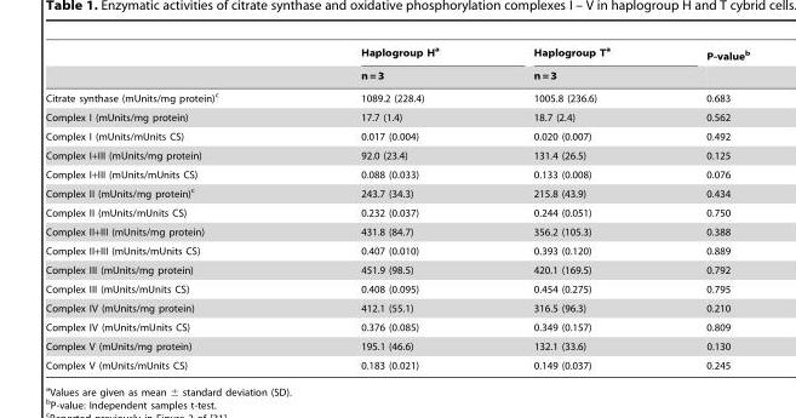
<table><thead><tr><td rowspan="2"></td><td rowspan="2">Haplogroup H<sup>a</sup> n = 3</td><td rowspan="2">Haplogroup T<sup>a</sup> n = 3</td><td rowspan="2">P-value<sup>b</sup></td></tr><tr></tr></thead><tbody><tr><td>Citrate synthase (mUnits/mg protein)<sup>c</sup></td><td>1089.2 (228.4)</td><td>1005.8 (236.6)</td><td>0.683</td></tr><tr><td>Complex I (mUnits/mg protein)</td><td>17.7 (1.4)</td><td>18.7 (2.4)</td><td>0.562</td></tr><tr><td>Complex I (mUnits/mUnits CS)</td><td>0.017 (0.004)</td><td>0.020 (0.007)</td><td>0.492</td></tr><tr><td>Complex I+III (mUnits/mg protein)</td><td>92.0 (23.4)</td><td>131.4 (26.5)</td><td>0.125</td></tr><tr><td>Complex I+III (mUnits/mUnits CS)</td><td>0.088 (0.033)</td><td>0.133 (0.008)</td><td>0.076</td></tr><tr><td>Complex II (mUnits/mg protein)<sup>c</sup></td><td>243.7 (34.3)</td><td>215.8 (43.9)</td><td>0.434</td></tr><tr><td>Complex II (mUnits/mUnits CS)</td><td>0.232 (0.037)</td><td>0.244 (0.051)</td><td>0.750</td></tr><tr><td>Complex II+III (mUnits/mg protein)</td><td>431.8 (84.7)</td><td>356.2 (105.3)</td><td>0.388</td></tr><tr><td>Complex II+III (mUnits/mUnits CS)</td><td>0.407 (0.010)</td><td>0.393 (0.120)</td><td>0.889</td></tr><tr><td>Complex III (mUnits/mg protein)</td><td>451.9 (98.5)</td><td>420.1 (169.5)</td><td>0.792</td></tr><tr><td>Complex III (mUnits/mUnits CS)</td><td>0.408 (0.095)</td><td>0.454 (0.275)</td><td>0.795</td></tr><tr><td>Complex IV (mUnits/mg protein)</td><td>412.1 (55.1)</td><td>316.5 (96.3)</td><td>0.210</td></tr><tr><td>Complex IV (mUnits/mUnits CS)</td><td>0.376 (0.085)</td><td>0.349 (0.157)</td><td>0.809</td></tr><tr><td>Complex V (mUnits/mg protein)</td><td>195.1 (46.6)</td><td>132.1 (33.6)</td><td>0.130</td></tr><tr><td>Complex V (mUnits/mUnits CS)</td><td>0.183 (0.021)</td><td>0.149 (0.037)</td><td>0.245</td></tr></tbody></table>